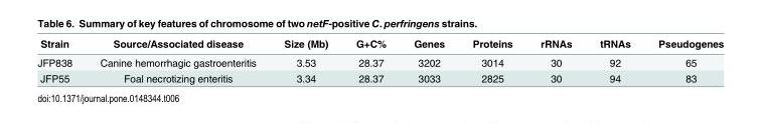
<table><thead><tr><td>Strain</td><td>Source/Associated disease</td><td>Size (Mb)</td><td>G+C%</td><td>Genes</td><td>Proteins</td><td>rRNAs</td><td>tRNAs</td><td>Pseudogenes</td></tr></thead><tbody><tr><td>JFP838</td><td>Canine hemorrhagic gastroenteritis</td><td>3.53</td><td>28.37</td><td>3202</td><td>3014</td><td>30</td><td>92</td><td>65</td></tr><tr><td>JFP55</td><td>Foal necrotizing enteritis</td><td>3.34</td><td>28.37</td><td>3033</td><td>2825</td><td>30</td><td>94</td><td>83</td></tr></tbody></table>